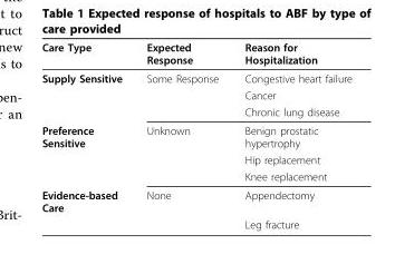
<table><thead><tr><td>Care Type</td><td>Expected Response</td><td>Reason for Hospitalization</td></tr></thead><tbody><tr><td rowspan="3">Supply Sensitive</td><td>Some Response</td><td>Congestive heart failure</td></tr><tr><td></td><td>Cancer</td></tr><tr><td></td><td>Chronic lung disease</td></tr><tr><td rowspan="3">Preference Sensitive</td><td>Unknown</td><td>Benign prostatic hypertrophy</td></tr><tr><td></td><td>Hip replacement</td></tr><tr><td></td><td>Knee replacement</td></tr><tr><td rowspan="2">Evidence-based Care</td><td>None</td><td>Appendectomy</td></tr><tr><td></td><td>Leg fracture</td></tr></tbody></table>